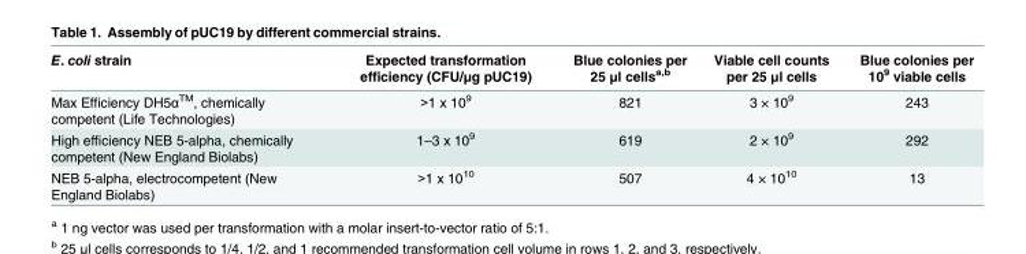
<table><thead><tr><td>E. coli strain</td><td>Expected transformation efficiency (CFU/μg pUC19)</td><td>Blue colonies per 25 μl cells<sup>a,b</sup></td><td>Viable cell counts per 25 μl cells</td><td>Blue colonies per 10<sup>9</sup> viable cells</td></tr></thead><tbody><tr><td>Max Efficiency DH5α<sup>TM</sup>, chemically competent (Life Technologies)</td><td>&gt;1 x 10<sup>9</sup></td><td>821</td><td>3 × 10<sup>9</sup></td><td>243</td></tr><tr><td>High efficiency NEB 5-alpha, chemically competent (New England Biolabs)</td><td>1–3 x 10<sup>9</sup></td><td>619</td><td>2 × 10<sup>9</sup></td><td>292</td></tr><tr><td>NEB 5-alpha, electrocompetent (New England Biolabs)</td><td>&gt;1 x 10<sup>10</sup></td><td>507</td><td>4 × 10<sup>10</sup></td><td>13</td></tr></tbody></table>